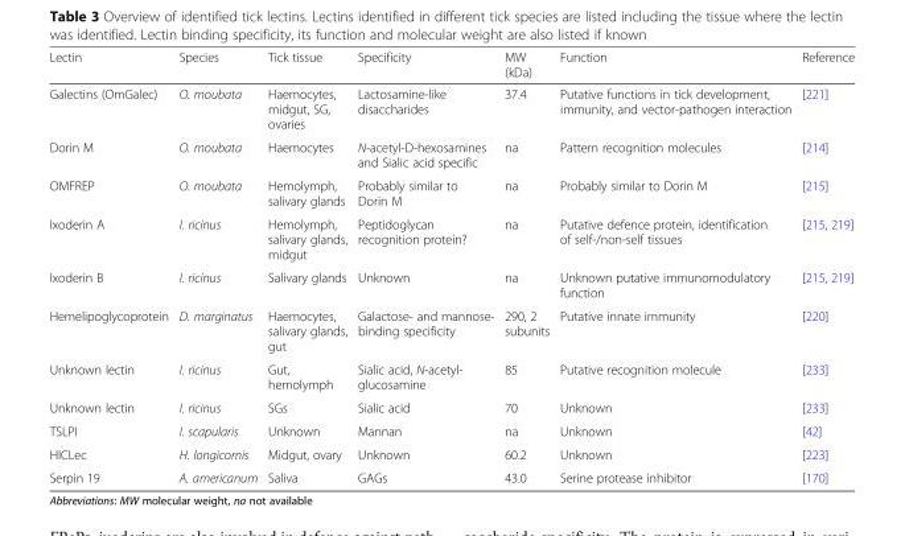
<table><thead><tr><td>Lectin</td><td>Species</td><td>Tick tissue</td><td>Specificity</td><td>MW (kDa)</td><td>Function</td><td>Reference</td></tr></thead><tbody><tr><td>Galectins (OmGalec)</td><td>O. moubata</td><td>Haemocytes, midgut, SG, ovaries</td><td>Lactosamine-like disaccharides</td><td>37.4</td><td>Putative functions in tick development, immunity, and vector-pathogen interaction</td><td>[221]</td></tr><tr><td>Dorin M</td><td>O. moubata</td><td>Haemocytes</td><td>N-acetyl-D-hexosamines and Sialic acid specific</td><td>na</td><td>Pattern recognition molecules</td><td>[214]</td></tr><tr><td>OMFREP</td><td>O. moubata</td><td>Hemolymph, salivary glands</td><td>Probably similar to Dorin M</td><td>na</td><td>Probably similar to Dorin M</td><td>[215]</td></tr><tr><td>Ixoderin A</td><td>I. ricinus</td><td>Hemolymph, salivary glands, midgut</td><td>Peptidoglycan recognition protein?</td><td>na</td><td>Putative defence protein, identification of self-/non-self tissues</td><td>[215, 219]</td></tr><tr><td>Ixoderin B</td><td>I. ricinus</td><td>Salivary glands</td><td>Unknown</td><td>na</td><td>Unknown putative immunomodulatory function</td><td>[215, 219]</td></tr><tr><td>Hemelipoglycoprotein</td><td>D. marginatus</td><td>Haemocytes, salivary glands, gut</td><td>Galactose- and mannose- binding specificity</td><td>290, 2 subunits</td><td>Putative innate immunity</td><td>[220]</td></tr><tr><td>Unknown lectin</td><td>I. ricinus</td><td>Gut, hemolymph</td><td>Sialic acid, N-acetyl- glucosamine</td><td>85</td><td>Putative recognition molecule</td><td>[233]</td></tr><tr><td>Unknown lectin</td><td>I. ricinus</td><td>SGs</td><td>Sialic acid</td><td>70</td><td>Unknown</td><td>[233]</td></tr><tr><td>TSLPI</td><td>I. scapularis</td><td>Unknown</td><td>Mannan</td><td>na</td><td>Unknown</td><td>[42]</td></tr><tr><td>HICLec</td><td>H. longicornis</td><td>Midgut, ovary</td><td>Unknown</td><td>60.2</td><td>Unknown</td><td>[223]</td></tr><tr><td>Serpin 19</td><td>A. americanum</td><td>Saliva</td><td>GAGs</td><td>43.0</td><td>Serine protease inhibitor</td><td>[170]</td></tr></tbody></table>